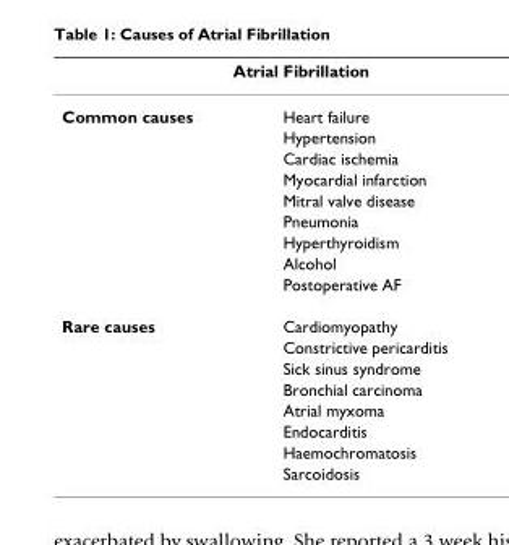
<table><thead><tr><td colspan="2">Atrial Fibrillation</td></tr><tr><td>Common causes</td><td>Heart failure</td></tr></thead><tbody><tr><td></td><td>Hypertension</td></tr><tr><td></td><td>Cardiac ischemia</td></tr><tr><td></td><td>Myocardial infarction</td></tr><tr><td></td><td>Mitral valve disease</td></tr><tr><td></td><td>Pneumonia</td></tr><tr><td></td><td>Hyperthyroidism</td></tr><tr><td></td><td>Alcohol</td></tr><tr><td></td><td>Postoperative AF</td></tr><tr><td rowspan="8">Rare causes</td><td>Cardiomyopathy</td></tr><tr><td>Constrictive pericarditis</td></tr><tr><td>Sick sinus syndrome</td></tr><tr><td>Bronchial carcinoma</td></tr><tr><td>Atrial myxoma</td></tr><tr><td>Endocarditis</td></tr><tr><td>Haemochromatosis</td></tr><tr><td>Sarcoidosis</td></tr></tbody></table>